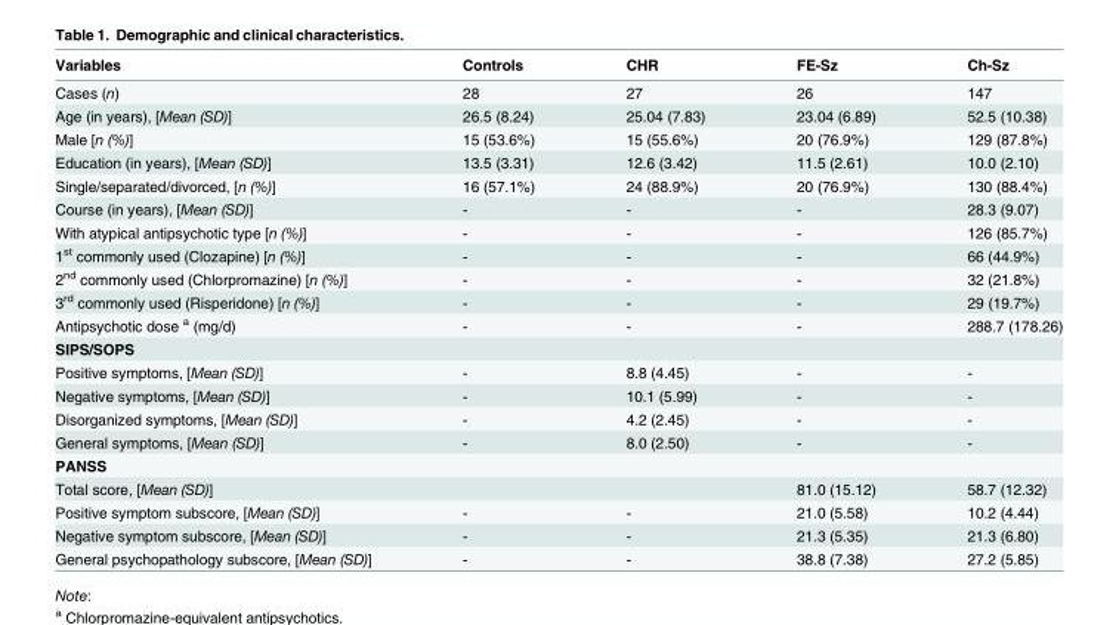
<table><thead><tr><td>Variables</td><td>Controls</td><td>CHR</td><td>FE-Sz</td><td>Ch-Sz</td></tr></thead><tbody><tr><td>Cases (n)</td><td>28</td><td>27</td><td>26</td><td>147</td></tr><tr><td>Age (in years), [Mean (SD)]</td><td>26.5 (8.24)</td><td>25.04 (7.83)</td><td>23.04 (6.89)</td><td>52.5 (10.38)</td></tr><tr><td>Male [n (%)]</td><td>15 (53.6%)</td><td>15 (55.6%)</td><td>20 (76.9%)</td><td>129 (87.8%)</td></tr><tr><td>Education (in years), [Mean (SD)]</td><td>13.5 (3.31)</td><td>12.6 (3.42)</td><td>11.5 (2.61)</td><td>10.0 (2.10)</td></tr><tr><td>Single/separated/divorced, [n (%)]</td><td>16 (57.1%)</td><td>24 (88.9%)</td><td>20 (76.9%)</td><td>130 (88.4%)</td></tr><tr><td>Course (in years), [Mean (SD)]</td><td>-</td><td>-</td><td>-</td><td>28.3 (9.07)</td></tr><tr><td>With atypical antipsychotic type [n (%)]</td><td>-</td><td>-</td><td>-</td><td>126 (85.7%)</td></tr><tr><td>1<sup>st</sup> commonly used (Clozapine) [n (%)]</td><td>-</td><td>-</td><td>-</td><td>66 (44.9%)</td></tr><tr><td>2<sup>nd</sup> commonly used (Chlorpromazine) [n (%)]</td><td>-</td><td>-</td><td>-</td><td>32 (21.8%)</td></tr><tr><td>3<sup>rd</sup> commonly used (Risperidone) [n (%)]</td><td>-</td><td>-</td><td>-</td><td>29 (19.7%)</td></tr><tr><td>Antipsychotic dose <sup>a</sup> (mg/d)</td><td>-</td><td>-</td><td>-</td><td>288.7 (178.26)</td></tr><tr><td colspan="5">SIPS/SOPS</td></tr><tr><td>Positive symptoms, [Mean (SD)]</td><td>-</td><td>8.8 (4.45)</td><td>-</td><td>-</td></tr><tr><td>Negative symptoms, [Mean (SD)]</td><td>-</td><td>10.1 (5.99)</td><td>-</td><td>-</td></tr><tr><td>Disorganized symptoms, [Mean (SD)]</td><td>-</td><td>4.2 (2.45)</td><td>-</td><td>-</td></tr><tr><td>General symptoms, [Mean (SD)]</td><td>-</td><td>8.0 (2.50)</td><td>-</td><td>-</td></tr><tr><td colspan="5">PANSS</td></tr><tr><td>Total score, [Mean (SD)]</td><td></td><td></td><td>81.0 (15.12)</td><td>58.7 (12.32)</td></tr><tr><td>Positive symptom subscore, [Mean (SD)]</td><td>-</td><td>-</td><td>21.0 (5.58)</td><td>10.2 (4.44)</td></tr><tr><td>Negative symptom subscore, [Mean (SD)]</td><td>-</td><td>-</td><td>21.3 (5.35)</td><td>21.3 (6.80)</td></tr><tr><td>General psychopathology subscore, [Mean (SD)]</td><td>-</td><td>-</td><td>38.8 (7.38)</td><td>27.2 (5.85)</td></tr></tbody></table>